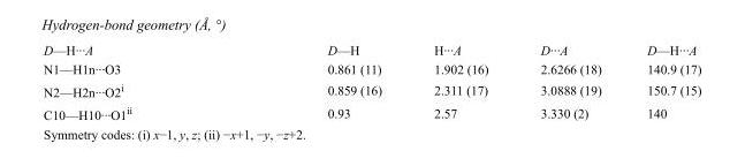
<table><tbody><tr><td>D—H···A</td><td>D—H</td><td>H···A</td><td>D···A</td><td>D—H···A</td></tr><tr><td>N1—H1n···O3</td><td>0.861 (11)</td><td>1.902 (16)</td><td>2.6266 (18)</td><td>140.9 (17)</td></tr><tr><td>N2—H2n···O2<sup>i</sup></td><td>0.859 (16)</td><td>2.311 (17)</td><td>3.0888 (19)</td><td>150.7 (15)</td></tr><tr><td>C10—H10···O1<sup>ii</sup></td><td>0.93</td><td>2.57</td><td>3.330 (2)</td><td>140</td></tr></tbody></table>